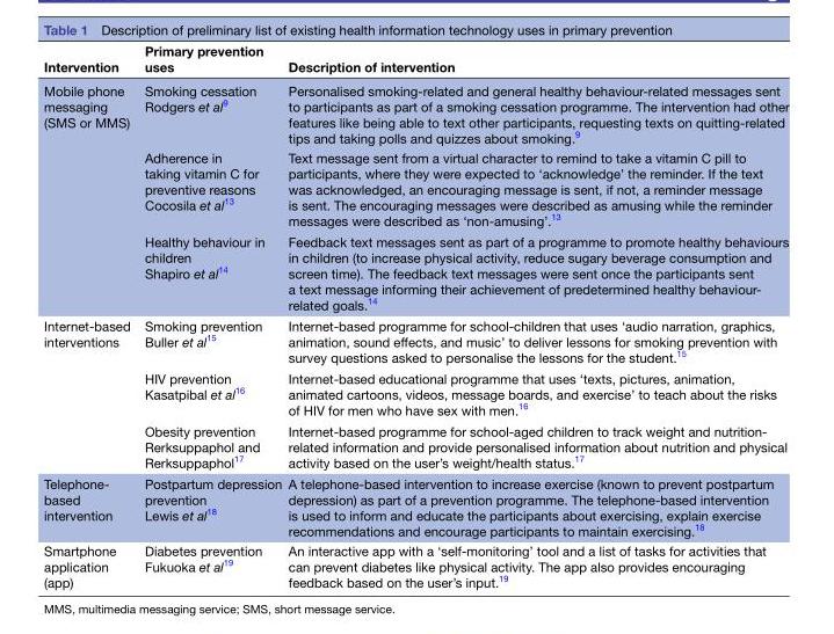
<table><thead><tr><td>Intervention</td><td>Primary prevention uses</td><td>Description of intervention</td></tr></thead><tbody><tr><td rowspan="3">Mobile phone messaging (SMS or MMS)</td><td>Smoking cessation Rodgers et al9</td><td>Personalised smoking-related and general healthy behaviour-related messages sent to participants as part of a smoking cessation programme. The intervention had other features like being able to text other participants, requesting texts on quitting-related tips and taking polls and quizzes about smoking.<sup>9</sup></td></tr><tr><td>Adherence in taking vitamin C for preventive reasons Cocosila et al13</td><td>Text message sent from a virtual character to remind to take a vitamin C pill to participants, where they were expected to ‘acknowledge’ the reminder. If the text was acknowledged, an encouraging message is sent, if not, a reminder message is sent. The encouraging messages were described as amusing while the reminder messages were described as ‘non-amusing’.<sup>13</sup></td></tr><tr><td>Healthy behaviour in children Shapiro et al14</td><td>Feedback text messages sent as part of a programme to promote healthy behaviours in children (to increase physical activity, reduce sugary beverage consumption and screen time). The feedback text messages were sent once the participants sent a text message informing their achievement of predetermined healthy behaviour- related goals.<sup>14</sup></td></tr><tr><td rowspan="3">Internet-based interventions</td><td>Smoking prevention Buller et al15</td><td>Internet-based programme for school-children that uses ‘audio narration, graphics, animation, sound effects, and music’ to deliver lessons for smoking prevention with survey questions asked to personalise the lessons for the student.<sup>15</sup></td></tr><tr><td>HIV prevention Kasatpibal et al16</td><td>Internet-based educational programme that uses ‘texts, pictures, animation, animated cartoons, videos, message boards, and exercise’ to teach about the risks of HIV for men who have sex with men.<sup>16</sup></td></tr><tr><td>Obesity prevention Rerksuppaphol and Rerksuppaphol<sup>17</sup></td><td>Internet-based programme for school-aged children to track weight and nutrition- related information and provide personalised information about nutrition and physical activity based on the user’s weight/health status.<sup>17</sup></td></tr><tr><td>Telephone- based intervention</td><td>Postpartum depression prevention Lewis et al18</td><td>A telephone-based intervention to increase exercise (known to prevent postpartum depression) as part of a prevention programme. The telephone-based intervention is used to inform and educate the participants about exercising, explain exercise recommendations and encourage participants to maintain exercising.<sup>18</sup></td></tr><tr><td>Smartphone application (app)</td><td>Diabetes prevention Fukuoka et al19</td><td>An interactive app with a ‘self-monitoring’ tool and a list of tasks for activities that can prevent diabetes like physical activity. The app also provides encouraging feedback based on the user’s input.<sup>19</sup></td></tr></tbody></table>